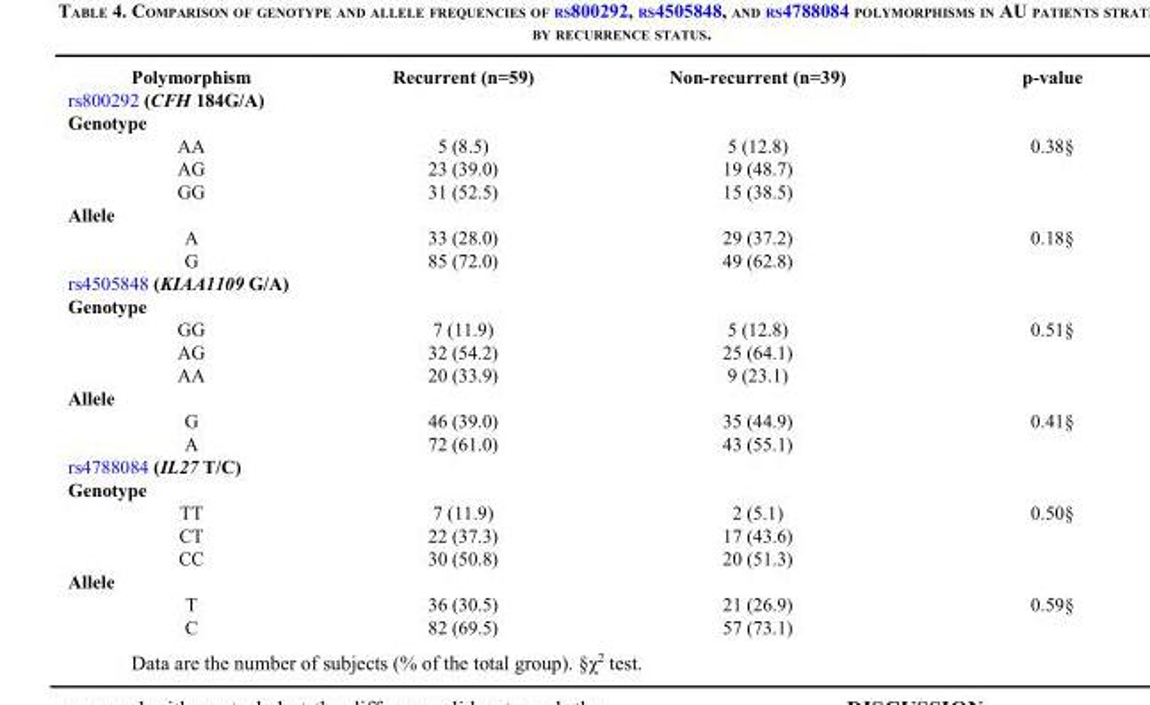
<table><thead><tr><td>Polymorphism</td><td>Recurrent (n=59)</td><td>Non-recurrent (n=39)</td><td>p-value</td></tr></thead><tbody><tr><td colspan="4">rs800292 (CFH 184G/A)</td></tr><tr><td colspan="4">Genotype</td></tr><tr><td>AA</td><td>5 (8.5)</td><td>5 (12.8)</td><td>0.38§</td></tr><tr><td>AG</td><td>23 (39.0)</td><td>19 (48.7)</td><td></td></tr><tr><td>GG</td><td>31 (52.5)</td><td>15 (38.5)</td><td></td></tr><tr><td colspan="4">Allele</td></tr><tr><td>A</td><td>33 (28.0)</td><td>29 (37.2)</td><td>0.18§</td></tr><tr><td>G</td><td>85 (72.0)</td><td>49 (62.8)</td><td></td></tr><tr><td colspan="4">rs4505848 (KIAA1109 G/A)</td></tr><tr><td colspan="4">Genotype</td></tr><tr><td>GG</td><td>7 (11.9)</td><td>5 (12.8)</td><td>0.51§</td></tr><tr><td>AG</td><td>32 (54.2)</td><td>25 (64.1)</td><td></td></tr><tr><td>AA</td><td>20 (33.9)</td><td>9 (23.1)</td><td></td></tr><tr><td colspan="4">Allele</td></tr><tr><td>G</td><td>46 (39.0)</td><td>35 (44.9)</td><td>0.41§</td></tr><tr><td>A</td><td>72 (61.0)</td><td>43 (55.1)</td><td></td></tr><tr><td colspan="4">rs4788084 (IL27 T/C)</td></tr><tr><td colspan="4">Genotype</td></tr><tr><td>TT</td><td>7 (11.9)</td><td>2 (5.1)</td><td>0.50§</td></tr><tr><td>CT</td><td>22 (37.3)</td><td>17 (43.6)</td><td></td></tr><tr><td>CC</td><td>30 (50.8)</td><td>20 (51.3)</td><td></td></tr><tr><td colspan="4">Allele</td></tr><tr><td>T</td><td>36 (30.5)</td><td>21 (26.9)</td><td>0.59§</td></tr><tr><td>C</td><td>82 (69.5)</td><td>57 (73.1)</td><td></td></tr></tbody></table>